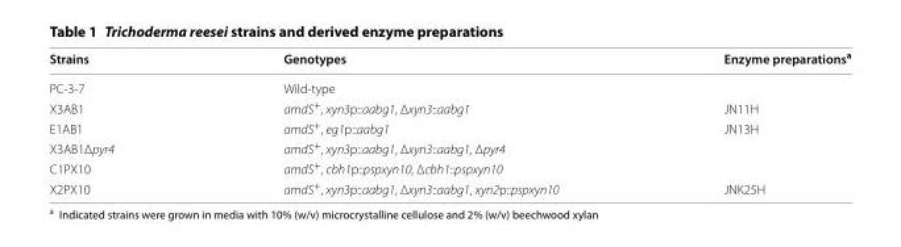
<table><thead><tr><td>Strains</td><td>Genotypes</td><td>Enzyme preparations<sup>a</sup></td></tr></thead><tbody><tr><td>PC-3-7</td><td>Wild-type</td><td></td></tr><tr><td>X3AB1</td><td>amdS<sup>+</sup>, xyn3p::aabg1, Δxyn3::aabg1</td><td>JN11H</td></tr><tr><td>E1AB1</td><td>amdS<sup>+</sup>, eg1p::aabg1</td><td>JN13H</td></tr><tr><td>X3AB1Δpyr4</td><td>amdS<sup>+</sup>, xyn3p::aabg1, Δxyn3::aabg1, Δpyr4</td><td></td></tr><tr><td>C1PX10</td><td>amdS<sup>+</sup>, cbh1p::pspxyn10, Δcbh1::pspxyn10</td><td></td></tr><tr><td>X2PX10</td><td>amdS<sup>+</sup>, xyn3p::aabg1, Δxyn3::aabg1, xyn2p::pspxyn10</td><td>JNK25H</td></tr></tbody></table>